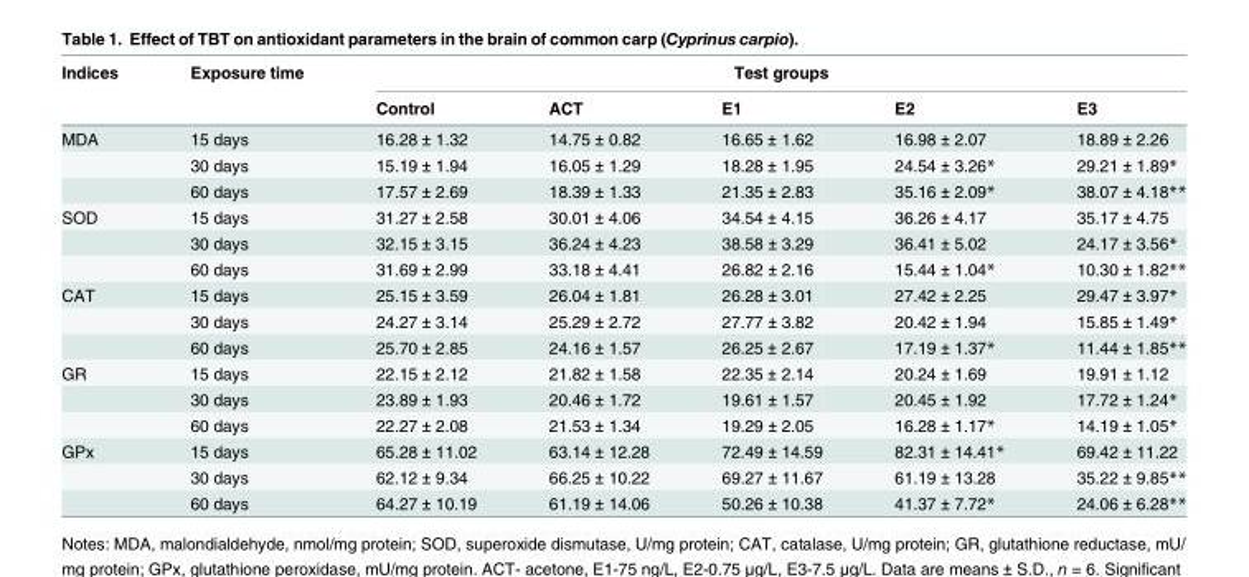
<table><thead><tr><td rowspan="2">Indices</td><td rowspan="2">Exposure time</td><td colspan="5">Test groups</td></tr><tr><td>Control</td><td>ACT</td><td>E1</td><td>E2</td><td>E3</td></tr></thead><tbody><tr><td rowspan="3">MDA</td><td>15 days</td><td>16.28 ± 1.32</td><td>14.75 ± 0.82</td><td>16.65 ± 1.62</td><td>16.98 ± 2.07</td><td>18.89 ± 2.26</td></tr><tr><td>30 days</td><td>15.19 ± 1.94</td><td>16.05 ± 1.29</td><td>18.28 ± 1.95</td><td>24.54 ± 3.26*</td><td>29.21 ± 1.89*</td></tr><tr><td>60 days</td><td>17.57 ± 2.69</td><td>18.39 ± 1.33</td><td>21.35 ± 2.83</td><td>35.16 ± 2.09*</td><td>38.07 ± 4.18**</td></tr><tr><td rowspan="3">SOD</td><td>15 days</td><td>31.27 ± 2.58</td><td>30.01 ± 4.06</td><td>34.54 ± 4.15</td><td>36.26 ± 4.17</td><td>35.17 ± 4.75</td></tr><tr><td>30 days</td><td>32.15 ± 3.15</td><td>36.24 ± 4.23</td><td>38.58 ± 3.29</td><td>36.41 ± 5.02</td><td>24.17 ± 3.56*</td></tr><tr><td>60 days</td><td>31.69 ± 2.99</td><td>33.18 ± 4.41</td><td>26.82 ± 2.16</td><td>15.44 ± 1.04*</td><td>10.30 ± 1.82**</td></tr><tr><td rowspan="3">CAT</td><td>15 days</td><td>25.15 ± 3.59</td><td>26.04 ± 1.81</td><td>26.28 ± 3.01</td><td>27.42 ± 2.25</td><td>29.47 ± 3.97*</td></tr><tr><td>30 days</td><td>24.27 ± 3.14</td><td>25.29 ± 2.72</td><td>27.77 ± 3.82</td><td>20.42 ± 1.94</td><td>15.85 ± 1.49*</td></tr><tr><td>60 days</td><td>25.70 ± 2.85</td><td>24.16 ± 1.57</td><td>26.25 ± 2.67</td><td>17.19 ± 1.37*</td><td>11.44 ± 1.85**</td></tr><tr><td rowspan="3">GR</td><td>15 days</td><td>22.15 ± 2.12</td><td>21.82 ± 1.58</td><td>22.35 ± 2.14</td><td>20.24 ± 1.69</td><td>19.91 ± 1.12</td></tr><tr><td>30 days</td><td>23.89 ± 1.93</td><td>20.46 ± 1.72</td><td>19.61 ± 1.57</td><td>20.45 ± 1.92</td><td>17.72 ± 1.24*</td></tr><tr><td>60 days</td><td>22.27 ± 2.08</td><td>21.53 ± 1.34</td><td>19.29 ± 2.05</td><td>16.28 ± 1.17*</td><td>14.19 ± 1.05*</td></tr><tr><td rowspan="3">GPx</td><td>15 days</td><td>65.28 ± 11.02</td><td>63.14 ± 12.28</td><td>72.49 ± 14.59</td><td>82.31 ± 14.41*</td><td>69.42 ± 11.22</td></tr><tr><td>30 days</td><td>62.12 ± 9.34</td><td>66.25 ± 10.22</td><td>69.27 ± 11.67</td><td>61.19 ± 13.28</td><td>35.22 ± 9.85**</td></tr><tr><td>60 days</td><td>64.27 ± 10.19</td><td>61.19 ± 14.06</td><td>50.26 ± 10.38</td><td>41.37 ± 7.72*</td><td>24.06 ± 6.28**</td></tr></tbody></table>